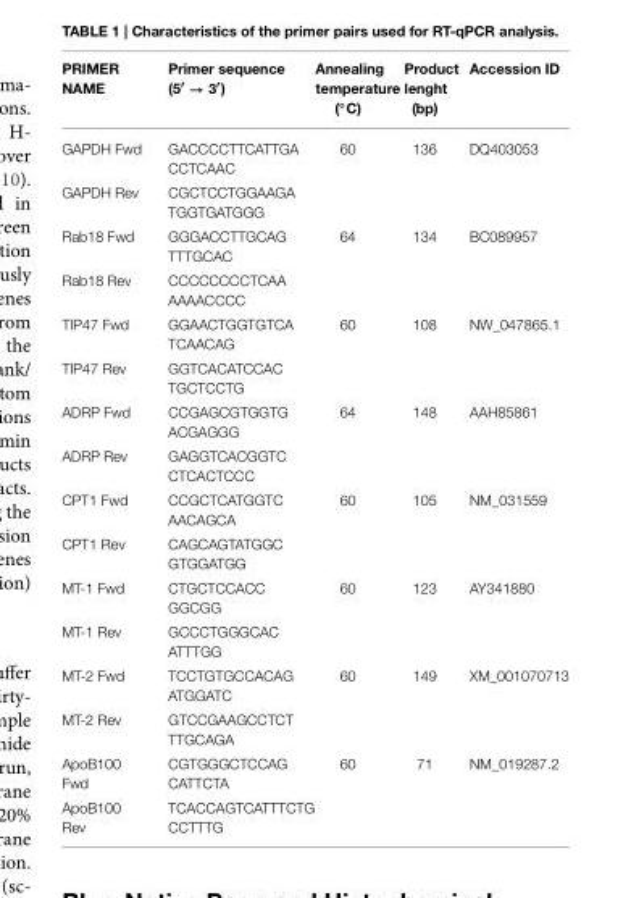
<table><thead><tr><td>PRIMER NAME</td><td>Primer sequence (5′ → 3′)</td><td>Annealing temperature (◦C)</td><td>Product lenght (bp)</td><td>Accession ID</td></tr></thead><tbody><tr><td>GAPDH Fwd</td><td>GACCCCTTCATTGA CCTCAAC</td><td>60</td><td>136</td><td>DQ403053</td></tr><tr><td>GAPDH Rev</td><td>CGCTCCTGGAAGA TGGTGATGGG</td><td></td><td></td><td></td></tr><tr><td>Rab18 Fwd</td><td>GGGACCTTGCAG TTTGCAC</td><td>64</td><td>134</td><td>BC089957</td></tr><tr><td>Rab18 Rev</td><td>CCCCCCCCTCAA AAAACCCC</td><td></td><td></td><td></td></tr><tr><td>TIP47 Fwd</td><td>GGAACTGGTGTCA TCAACAG</td><td>60</td><td>108</td><td>NW_047865.1</td></tr><tr><td>TIP47 Rev</td><td>GGTCACATCCAC TGCTCCTG</td><td></td><td></td><td></td></tr><tr><td>ADRP Fwd</td><td>CCGAGCGTGGTG ACGAGGG</td><td>64</td><td>148</td><td>AAH85861</td></tr><tr><td>ADRP Rev</td><td>GAGGTCACGGTC CTCACTCCC</td><td></td><td></td><td></td></tr><tr><td>CPT1 Fwd</td><td>CCGCTCATGGTC AACAGCA</td><td>60</td><td>105</td><td>NM_031559</td></tr><tr><td>CPT1 Rev</td><td>CAGCAGTATGGC GTGGATGG</td><td></td><td></td><td></td></tr><tr><td>MT-1 Fwd</td><td>CTGCTCCACC GGCGG</td><td>60</td><td>123</td><td>AY341880</td></tr><tr><td>MT-1 Rev</td><td>GCCCTGGGCAC ATTTGG</td><td></td><td></td><td></td></tr><tr><td>MT-2 Fwd</td><td>TCCTGTGCCACAG ATGGATC</td><td>60</td><td>149</td><td>XM_001070713</td></tr><tr><td>MT-2 Rev</td><td>GTCCGAAGCCTCT TTGCAGA</td><td></td><td></td><td></td></tr><tr><td>ApoB100 Fwd</td><td>CGTGGGCTCCAG CATTCTA</td><td>60</td><td>71</td><td>NM_019287.2</td></tr><tr><td>ApoB100 Rev</td><td>TCACCAGTCATTTCTG CCTTTG</td><td></td><td></td><td></td></tr></tbody></table>